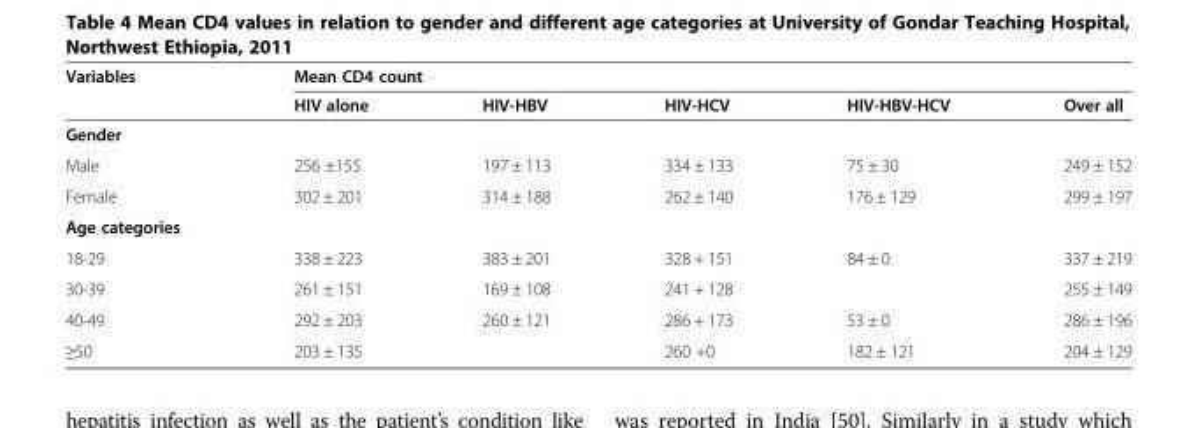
<table><thead><tr><td rowspan="2">Variables</td><td colspan="5">Mean CD4 count</td></tr><tr><td>HIV alone</td><td>HIV-HBV</td><td>HIV-HCV</td><td>HIV-HBV-HCV</td><td>Over all</td></tr></thead><tbody><tr><td colspan="6">Gender</td></tr><tr><td>Male</td><td>256 ±155</td><td>197 ± 113</td><td>334 ± 133</td><td>75 ± 30</td><td>249 ± 152</td></tr><tr><td>Female</td><td>302 ± 201</td><td>314 ± 188</td><td>262 ± 140</td><td>176 ± 129</td><td>299 ± 197</td></tr><tr><td colspan="6">Age categories</td></tr><tr><td>18-29</td><td>338 ± 223</td><td>383 ± 201</td><td>328 + 151</td><td>84 ± 0</td><td>337 ± 219</td></tr><tr><td>30-39</td><td>261 ± 151</td><td>169 ± 108</td><td>241 + 128</td><td></td><td>255 ± 149</td></tr><tr><td>40-49</td><td>292 ± 203</td><td>260 ± 121</td><td>286 + 173</td><td>53 ± 0</td><td>286 ± 196</td></tr><tr><td>≥50</td><td>203 ± 135</td><td></td><td>260 +0</td><td>182 ± 121</td><td>204 ± 129</td></tr></tbody></table>